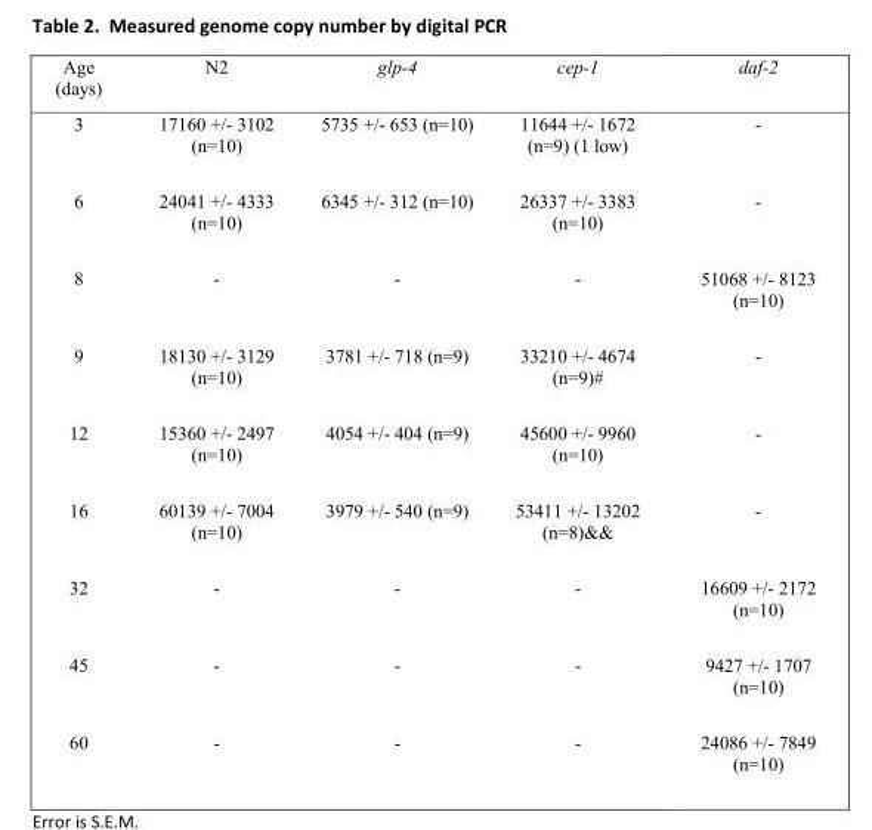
<table><thead><tr><td>Age (days)</td><td>N2</td><td>glp-4</td><td>cep-1</td><td>daf-2</td></tr></thead><tbody><tr><td>3</td><td>17160 +/- 3102 (n=10)</td><td>5735 +/- 653 (n=10)</td><td>11644 +/- 1672 (n=9) (1 low)</td><td>-</td></tr><tr><td>6</td><td>24041 +/- 4333 (n=10)</td><td>6345 +/- 312 (n=10)</td><td>26337 +/- 3383 (n=10)</td><td>-</td></tr><tr><td>8</td><td>-</td><td>-</td><td>-</td><td>51068 +/- 8123 (n=10)</td></tr><tr><td>9</td><td>18130 +/- 3129 (n=10)</td><td>3781 +/- 718 (n=9)</td><td>33210 +/- 4674 (n=9)#</td><td>-</td></tr><tr><td>12</td><td>15360 +/- 2497 (n=10)</td><td>4054 +/- 404 (n=9)</td><td>45600 +/- 9960 (n=10)</td><td>-</td></tr><tr><td>16</td><td>60139 +/- 7004 (n=10)</td><td>3979 +/- 540 (n=9)</td><td>53411 +/- 13202 (n=8)&amp;&amp;</td><td>-</td></tr><tr><td>32</td><td>-</td><td>-</td><td>-</td><td>16609 +/- 2172 (n=10)</td></tr><tr><td>45</td><td>-</td><td>-</td><td>-</td><td>9427 +/- 1707 (n=10)</td></tr><tr><td>60</td><td>-</td><td>-</td><td>-</td><td>24086 +/- 7849 (n=10)</td></tr></tbody></table>